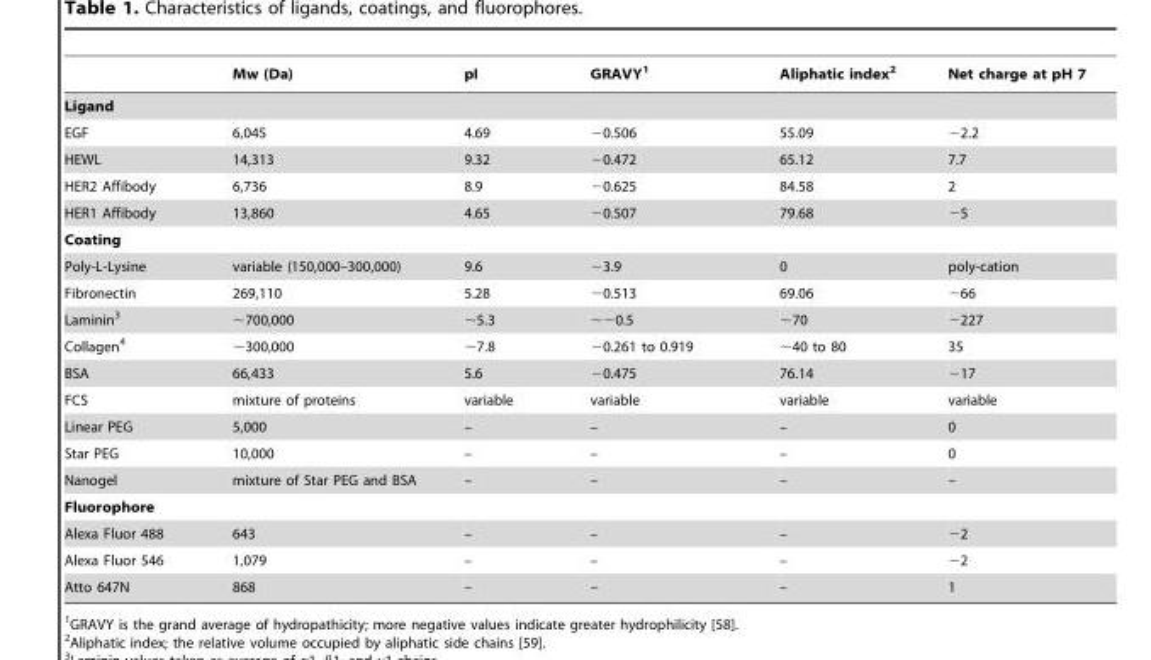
<table><thead><tr><td></td><td>Mw (Da)</td><td>pI</td><td>GRAVY<sup>1</sup></td><td>Aliphatic index<sup>2</sup></td><td>Net charge at pH 7</td></tr></thead><tbody><tr><td colspan="6">Ligand</td></tr><tr><td>EGF</td><td>6,045</td><td>4.69</td><td>−0.506</td><td>55.09</td><td>−2.2</td></tr><tr><td>HEWL</td><td>14,313</td><td>9.32</td><td>−0.472</td><td>65.12</td><td>7.7</td></tr><tr><td>HER2 Affibody</td><td>6,736</td><td>8.9</td><td>−0.625</td><td>84.58</td><td>2</td></tr><tr><td>HER1 Affibody</td><td>13,860</td><td>4.65</td><td>−0.507</td><td>79.68</td><td>−5</td></tr><tr><td colspan="6">Coating</td></tr><tr><td>Poly-L-Lysine</td><td>variable (150,000–300,000)</td><td>9.6</td><td>−3.9</td><td>0</td><td>poly-cation</td></tr><tr><td>Fibronectin</td><td>269,110</td><td>5.28</td><td>−0.513</td><td>69.06</td><td>−66</td></tr><tr><td>Laminin<sup>3</sup></td><td>∼700,000</td><td>∼5.3</td><td>∼−0.5</td><td>∼70</td><td>−227</td></tr><tr><td>Collagen<sup>4</sup></td><td>∼300,000</td><td>∼7.8</td><td>−0.261 to 0.919</td><td>∼40 to 80</td><td>35</td></tr><tr><td>BSA</td><td>66,433</td><td>5.6</td><td>−0.475</td><td>76.14</td><td>−17</td></tr><tr><td>FCS</td><td>mixture of proteins</td><td>variable</td><td>variable</td><td>variable</td><td>variable</td></tr><tr><td>Linear PEG</td><td>5,000</td><td>–</td><td>–</td><td>–</td><td>0</td></tr><tr><td>Star PEG</td><td>10,000</td><td>–</td><td>–</td><td>–</td><td>0</td></tr><tr><td>Nanogel</td><td>mixture of Star PEG and BSA</td><td>–</td><td>–</td><td>–</td><td>–</td></tr><tr><td colspan="6">Fluorophore</td></tr><tr><td>Alexa Fluor 488</td><td>643</td><td>–</td><td>–</td><td>–</td><td>−2</td></tr><tr><td>Alexa Fluor 546</td><td>1,079</td><td>–</td><td>–</td><td>–</td><td>−2</td></tr><tr><td>Atto 647N</td><td>868</td><td>–</td><td>–</td><td>–</td><td>1</td></tr></tbody></table>